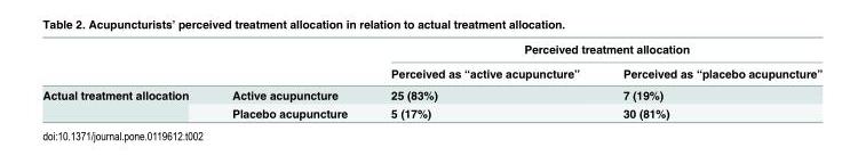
<table><thead><tr><td rowspan="2"></td><td rowspan="2"></td><td colspan="2">Perceived treatment allocation</td></tr><tr><td>Perceived as “active acupuncture”</td><td>Perceived as “placebo acupuncture”</td></tr></thead><tbody><tr><td rowspan="2">Actual treatment allocation</td><td>Active acupuncture</td><td>25 (83%)</td><td>7 (19%)</td></tr><tr><td>Placebo acupuncture</td><td>5 (17%)</td><td>30 (81%)</td></tr></tbody></table>